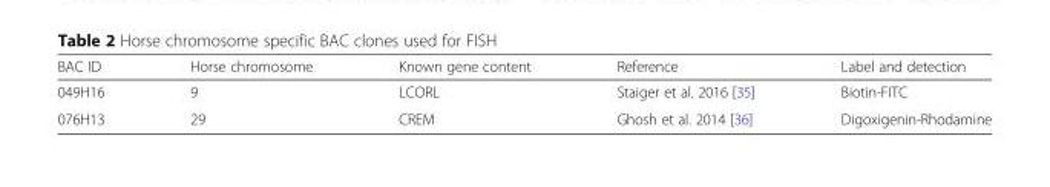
<table><thead><tr><td>BAC ID</td><td>Horse chromosome</td><td>Known gene content</td><td>Reference</td><td>Label and detection</td></tr></thead><tbody><tr><td>049H16</td><td>9</td><td>LCORL</td><td>Staiger et al. 2016 [35]</td><td>Biotin-FITC</td></tr><tr><td>076H13</td><td>29</td><td>CREM</td><td>Ghosh et al. 2014 [36]</td><td>Digoxigenin-Rhodamine</td></tr></tbody></table>